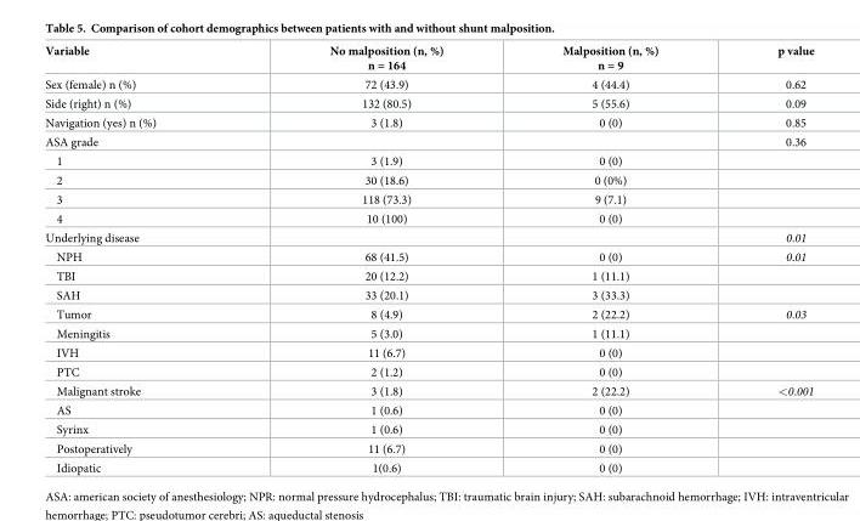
<table><thead><tr><td>Variable</td><td>No malposition (n, %) n = 164</td><td>Malposition (n, %) n = 9</td><td>p value</td></tr></thead><tbody><tr><td>Sex (female) n (%)</td><td>72 (43.9)</td><td>4 (44.4)</td><td>0.62</td></tr><tr><td>Side (right) n (%)</td><td>132 (80.5)</td><td>5 (55.6)</td><td>0.09</td></tr><tr><td>Navigation (yes) n (%)</td><td>3 (1.8)</td><td>0 (0)</td><td>0.85</td></tr><tr><td>ASA grade</td><td></td><td></td><td>0.36</td></tr><tr><td>1</td><td>3 (1.9)</td><td>0 (0)</td><td></td></tr><tr><td>2</td><td>30 (18.6)</td><td>0 (0%)</td><td></td></tr><tr><td>3</td><td>118 (73.3)</td><td>9 (7.1)</td><td></td></tr><tr><td>4</td><td>10 (100)</td><td>0 (0)</td><td></td></tr><tr><td>Underlying disease</td><td></td><td></td><td>0.01</td></tr><tr><td>NPH</td><td>68 (41.5)</td><td>0 (0)</td><td>0.01</td></tr><tr><td>TBI</td><td>20 (12.2)</td><td>1 (11.1)</td><td></td></tr><tr><td>SAH</td><td>33 (20.1)</td><td>3 (33.3)</td><td></td></tr><tr><td>Tumor</td><td>8 (4.9)</td><td>2 (22.2)</td><td>0.03</td></tr><tr><td>Meningitis</td><td>5 (3.0)</td><td>1 (11.1)</td><td></td></tr><tr><td>IVH</td><td>11 (6.7)</td><td>0 (0)</td><td></td></tr><tr><td>PTC</td><td>2 (1.2)</td><td>0 (0)</td><td></td></tr><tr><td>Malignant stroke</td><td>3 (1.8)</td><td>2 (22.2)</td><td>&lt;0.001</td></tr><tr><td>AS</td><td>1 (0.6)</td><td>0 (0)</td><td></td></tr><tr><td>Syrinx</td><td>1 (0.6)</td><td>0 (0)</td><td></td></tr><tr><td>Postoperatively</td><td>11 (6.7)</td><td>0 (0)</td><td></td></tr><tr><td>Idiopatic</td><td>1(0.6)</td><td>0 (0)</td><td></td></tr></tbody></table>